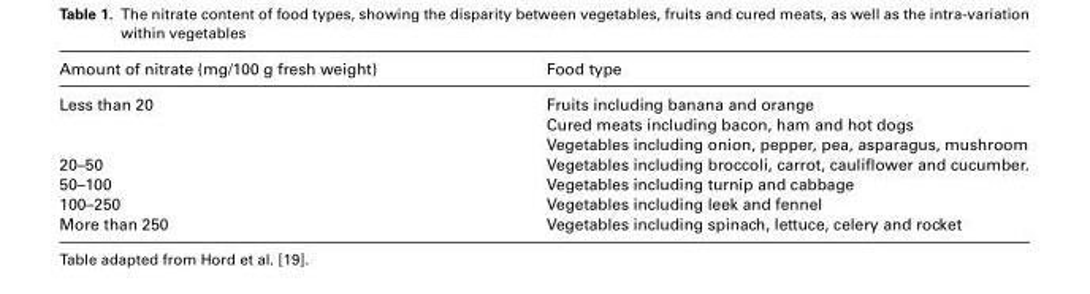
<table><thead><tr><td>Amount of nitrate (mg/100 g fresh weight)</td><td>Food type</td></tr></thead><tbody><tr><td rowspan="3">Less than 20</td><td>Fruits including banana and orange</td></tr><tr><td>Cured meats including bacon, ham and hot dogs</td></tr><tr><td>Vegetables including onion, pepper, pea, asparagus, mushroom</td></tr><tr><td>20–50</td><td>Vegetables including broccoli, carrot, cauliflower and cucumber.</td></tr><tr><td>50–100</td><td>Vegetables including turnip and cabbage</td></tr><tr><td>100–250</td><td>Vegetables including leek and fennel</td></tr><tr><td>More than 250</td><td>Vegetables including spinach, lettuce, celery and rocket</td></tr></tbody></table>